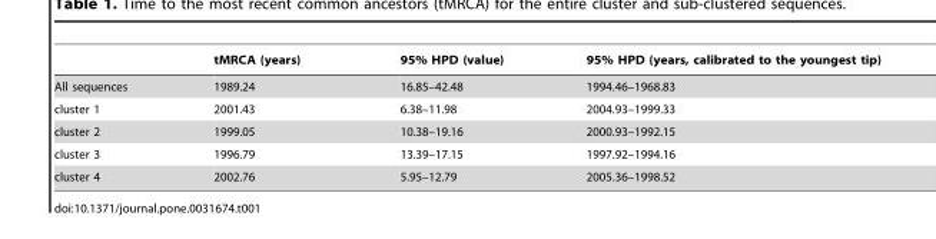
<table><thead><tr><td></td><td>tMRCA (years)</td><td>95% HPD (value)</td><td>95% HPD (years, calibrated to the youngest tip)</td></tr></thead><tbody><tr><td>All sequences</td><td>1989.24</td><td>16.85–42.48</td><td>1994.46–1968.83</td></tr><tr><td>cluster 1</td><td>2001.43</td><td>6.38–11.98</td><td>2004.93–1999.33</td></tr><tr><td>cluster 2</td><td>1999.05</td><td>10.38–19.16</td><td>2000.93–1992.15</td></tr><tr><td>cluster 3</td><td>1996.79</td><td>13.39–17.15</td><td>1997.92–1994.16</td></tr><tr><td>cluster 4</td><td>2002.76</td><td>5.95–12.79</td><td>2005.36–1998.52</td></tr></tbody></table>